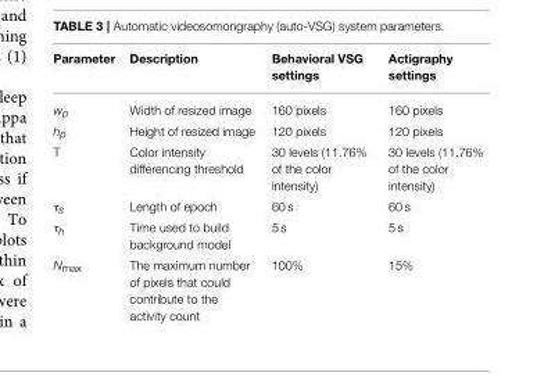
<table><thead><tr><td>Parameter</td><td>Description</td><td>Behavioral VSG settings</td><td>Actigraphy settings</td></tr></thead><tbody><tr><td>wp</td><td>Width of resized image</td><td>160 pixels</td><td>160 pixels</td></tr><tr><td>hp</td><td>Height of resized image</td><td>120 pixels</td><td>120 pixels</td></tr><tr><td>T</td><td>Color intensity differencing threshold</td><td>30 levels (11.76% of the color intensity)</td><td>30 levels (11.76% of the color intensity)</td></tr><tr><td>τ<sub>s</sub></td><td>Length of epoch</td><td>60 s</td><td>60 s</td></tr><tr><td>τ<sub>h</sub></td><td>Time used to build background model</td><td>5 s</td><td>5 s</td></tr><tr><td>N<sub>max</sub></td><td>The maximum number of pixels that could contribute to the activity count</td><td>100%</td><td>15%</td></tr></tbody></table>